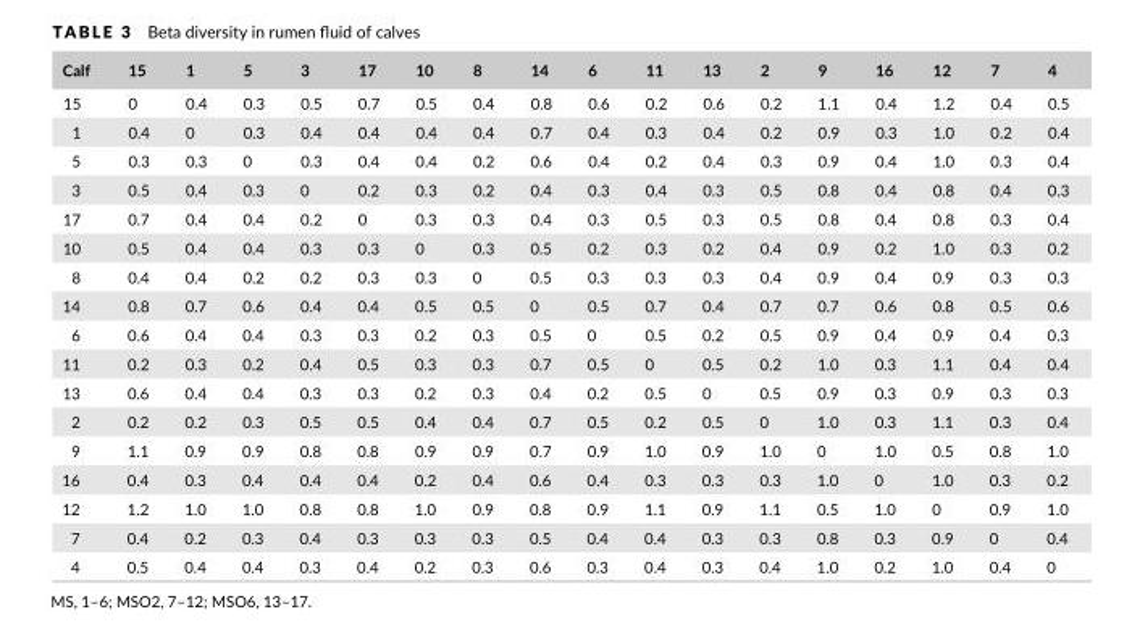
<table><thead><tr><td>Calf</td><td>15</td><td>1</td><td>5</td><td>3</td><td>17</td><td>10</td><td>8</td><td>14</td><td>6</td><td>11</td><td>13</td><td>2</td><td>9</td><td>16</td><td>12</td><td>7</td><td>4</td></tr></thead><tbody><tr><td>15</td><td>0</td><td>0.4</td><td>0.3</td><td>0.5</td><td>0.7</td><td>0.5</td><td>0.4</td><td>0.8</td><td>0.6</td><td>0.2</td><td>0.6</td><td>0.2</td><td>1.1</td><td>0.4</td><td>1.2</td><td>0.4</td><td>0.5</td></tr><tr><td>1</td><td>0.4</td><td>0</td><td>0.3</td><td>0.4</td><td>0.4</td><td>0.4</td><td>0.4</td><td>0.7</td><td>0.4</td><td>0.3</td><td>0.4</td><td>0.2</td><td>0.9</td><td>0.3</td><td>1.0</td><td>0.2</td><td>0.4</td></tr><tr><td>5</td><td>0.3</td><td>0.3</td><td>0</td><td>0.3</td><td>0.4</td><td>0.4</td><td>0.2</td><td>0.6</td><td>0.4</td><td>0.2</td><td>0.4</td><td>0.3</td><td>0.9</td><td>0.4</td><td>1.0</td><td>0.3</td><td>0.4</td></tr><tr><td>3</td><td>0.5</td><td>0.4</td><td>0.3</td><td>0</td><td>0.2</td><td>0.3</td><td>0.2</td><td>0.4</td><td>0.3</td><td>0.4</td><td>0.3</td><td>0.5</td><td>0.8</td><td>0.4</td><td>0.8</td><td>0.4</td><td>0.3</td></tr><tr><td>17</td><td>0.7</td><td>0.4</td><td>0.4</td><td>0.2</td><td>0</td><td>0.3</td><td>0.3</td><td>0.4</td><td>0.3</td><td>0.5</td><td>0.3</td><td>0.5</td><td>0.8</td><td>0.4</td><td>0.8</td><td>0.3</td><td>0.4</td></tr><tr><td>10</td><td>0.5</td><td>0.4</td><td>0.4</td><td>0.3</td><td>0.3</td><td>0</td><td>0.3</td><td>0.5</td><td>0.2</td><td>0.3</td><td>0.2</td><td>0.4</td><td>0.9</td><td>0.2</td><td>1.0</td><td>0.3</td><td>0.2</td></tr><tr><td>8</td><td>0.4</td><td>0.4</td><td>0.2</td><td>0.2</td><td>0.3</td><td>0.3</td><td>0</td><td>0.5</td><td>0.3</td><td>0.3</td><td>0.3</td><td>0.4</td><td>0.9</td><td>0.4</td><td>0.9</td><td>0.3</td><td>0.3</td></tr><tr><td>14</td><td>0.8</td><td>0.7</td><td>0.6</td><td>0.4</td><td>0.4</td><td>0.5</td><td>0.5</td><td>0</td><td>0.5</td><td>0.7</td><td>0.4</td><td>0.7</td><td>0.7</td><td>0.6</td><td>0.8</td><td>0.5</td><td>0.6</td></tr><tr><td>6</td><td>0.6</td><td>0.4</td><td>0.4</td><td>0.3</td><td>0.3</td><td>0.2</td><td>0.3</td><td>0.5</td><td>0</td><td>0.5</td><td>0.2</td><td>0.5</td><td>0.9</td><td>0.4</td><td>0.9</td><td>0.4</td><td>0.3</td></tr><tr><td>11</td><td>0.2</td><td>0.3</td><td>0.2</td><td>0.4</td><td>0.5</td><td>0.3</td><td>0.3</td><td>0.7</td><td>0.5</td><td>0</td><td>0.5</td><td>0.2</td><td>1.0</td><td>0.3</td><td>1.1</td><td>0.4</td><td>0.4</td></tr><tr><td>13</td><td>0.6</td><td>0.4</td><td>0.4</td><td>0.3</td><td>0.3</td><td>0.2</td><td>0.3</td><td>0.4</td><td>0.2</td><td>0.5</td><td>0</td><td>0.5</td><td>0.9</td><td>0.3</td><td>0.9</td><td>0.3</td><td>0.3</td></tr><tr><td>2</td><td>0.2</td><td>0.2</td><td>0.3</td><td>0.5</td><td>0.5</td><td>0.4</td><td>0.4</td><td>0.7</td><td>0.5</td><td>0.2</td><td>0.5</td><td>0</td><td>1.0</td><td>0.3</td><td>1.1</td><td>0.3</td><td>0.4</td></tr><tr><td>9</td><td>1.1</td><td>0.9</td><td>0.9</td><td>0.8</td><td>0.8</td><td>0.9</td><td>0.9</td><td>0.7</td><td>0.9</td><td>1.0</td><td>0.9</td><td>1.0</td><td>0</td><td>1.0</td><td>0.5</td><td>0.8</td><td>1.0</td></tr><tr><td>16</td><td>0.4</td><td>0.3</td><td>0.4</td><td>0.4</td><td>0.4</td><td>0.2</td><td>0.4</td><td>0.6</td><td>0.4</td><td>0.3</td><td>0.3</td><td>0.3</td><td>1.0</td><td>0</td><td>1.0</td><td>0.3</td><td>0.2</td></tr><tr><td>12</td><td>1.2</td><td>1.0</td><td>1.0</td><td>0.8</td><td>0.8</td><td>1.0</td><td>0.9</td><td>0.8</td><td>0.9</td><td>1.1</td><td>0.9</td><td>1.1</td><td>0.5</td><td>1.0</td><td>0</td><td>0.9</td><td>1.0</td></tr><tr><td>7</td><td>0.4</td><td>0.2</td><td>0.3</td><td>0.4</td><td>0.3</td><td>0.3</td><td>0.3</td><td>0.5</td><td>0.4</td><td>0.4</td><td>0.3</td><td>0.3</td><td>0.8</td><td>0.3</td><td>0.9</td><td>0</td><td>0.4</td></tr><tr><td>4</td><td>0.5</td><td>0.4</td><td>0.4</td><td>0.3</td><td>0.4</td><td>0.2</td><td>0.3</td><td>0.6</td><td>0.3</td><td>0.4</td><td>0.3</td><td>0.4</td><td>1.0</td><td>0.2</td><td>1.0</td><td>0.4</td><td>0</td></tr></tbody></table>